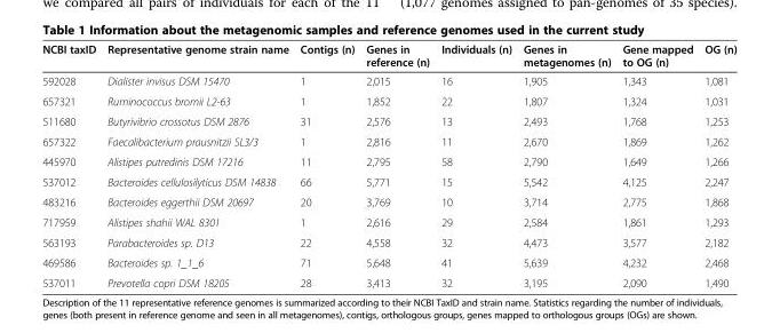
<table><thead><tr><td>NCBI taxID</td><td>Representative genome strain name</td><td>Contigs (n)</td><td>Genes in reference (n)</td><td>Individuals (n)</td><td>Genes in metagenomes (n)</td><td>Gene mapped to OG (n)</td><td>OG (n)</td></tr></thead><tbody><tr><td>592028</td><td>Dialister invisus DSM 15470</td><td>1</td><td>2,015</td><td>16</td><td>1,905</td><td>1,343</td><td>1,081</td></tr><tr><td>657321</td><td>Ruminococcus bromii L2-63</td><td>1</td><td>1,852</td><td>22</td><td>1,807</td><td>1,324</td><td>1,031</td></tr><tr><td>511680</td><td>Butyrivibrio crossotus DSM 2876</td><td>31</td><td>2,576</td><td>13</td><td>2,493</td><td>1,768</td><td>1,253</td></tr><tr><td>657322</td><td>Faecalibacterium prausnitzii SL3/3</td><td>1</td><td>2,816</td><td>11</td><td>2,670</td><td>1,869</td><td>1,262</td></tr><tr><td>445970</td><td>Alistipes putredinis DSM 17216</td><td>11</td><td>2,795</td><td>58</td><td>2,790</td><td>1,649</td><td>1,266</td></tr><tr><td>537012</td><td>Bacteroides cellulosilyticus DSM 14838</td><td>66</td><td>5,771</td><td>15</td><td>5,542</td><td>4,125</td><td>2,247</td></tr><tr><td>483216</td><td>Bacteroides eggerthii DSM 20697</td><td>20</td><td>3,769</td><td>10</td><td>3,714</td><td>2,775</td><td>1,868</td></tr><tr><td>717959</td><td>Alistipes shahii WAL 8301</td><td>1</td><td>2,616</td><td>29</td><td>2,584</td><td>1,861</td><td>1,293</td></tr><tr><td>563193</td><td>Parabacteroides sp. D13</td><td>22</td><td>4,558</td><td>32</td><td>4,473</td><td>3,577</td><td>2,182</td></tr><tr><td>469586</td><td>Bacteroides sp. 1_1_6</td><td>71</td><td>5,648</td><td>41</td><td>5,639</td><td>4,232</td><td>2,468</td></tr><tr><td>537011</td><td>Prevotella copri DSM 18205</td><td>28</td><td>3,413</td><td>32</td><td>3,195</td><td>2,090</td><td>1,490</td></tr></tbody></table>